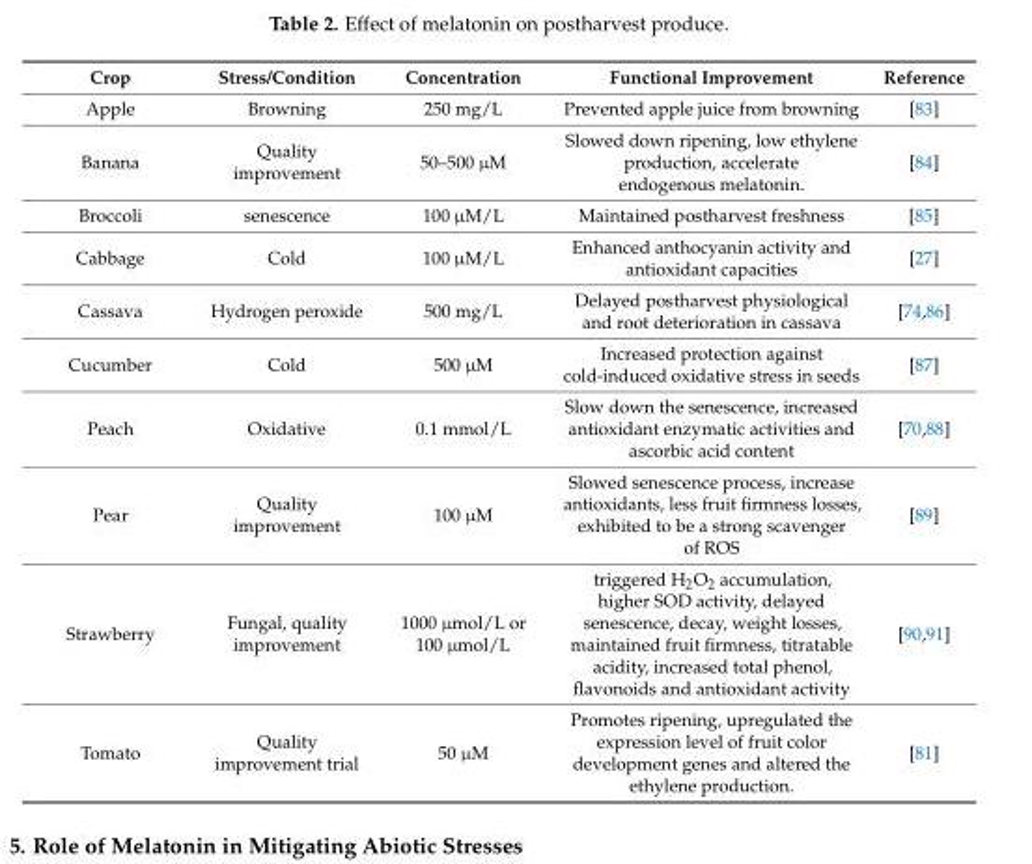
<table><thead><tr><td>Crop</td><td>Stress/Condition</td><td>Concentration</td><td>Functional Improvement</td><td>Reference</td></tr></thead><tbody><tr><td>Apple</td><td>Browning</td><td>250 mg/L</td><td>Prevented apple juice from browning</td><td>[83]</td></tr><tr><td>Banana</td><td>Quality improvement</td><td>50–500 µM</td><td>Slowed down ripening, low ethylene production, accelerate endogenous melatonin.</td><td>[84]</td></tr><tr><td>Broccoli</td><td>senescence</td><td>100 µM/L</td><td>Maintained postharvest freshness</td><td>[85]</td></tr><tr><td>Cabbage</td><td>Cold</td><td>100 µM/L</td><td>Enhanced anthocyanin activity and antioxidant capacities</td><td>[27]</td></tr><tr><td>Cassava</td><td>Hydrogen peroxide</td><td>500 mg/L</td><td>Delayed postharvest physiological and root deterioration in cassava</td><td>[74,86]</td></tr><tr><td>Cucumber</td><td>Cold</td><td>500 µM</td><td>Increased protection against cold-induced oxidative stress in seeds</td><td>[87]</td></tr><tr><td>Peach</td><td>Oxidative</td><td>0.1 mmol/L</td><td>Slow down the senescence, increased antioxidant enzymatic activities and ascorbic acid content</td><td>[70,88]</td></tr><tr><td>Pear</td><td>Quality improvement</td><td>100 µM</td><td>Slowed senescence process, increase antioxidants, less fruit firmness losses, exhibited to be a strong scavenger of ROS</td><td>[89]</td></tr><tr><td>Strawberry</td><td>Fungal, quality improvement</td><td>1000 µmol/L or 100 µmol/L</td><td>triggered H<sub>2</sub>O<sub>2</sub> accumulation, higher SOD activity, delayed senescence, decay, weight losses, maintained fruit firmness, titratable acidity, increased total phenol, flavonoids and antioxidant activity</td><td>[90,91]</td></tr><tr><td>Tomato</td><td>Quality improvement trial</td><td>50 µM</td><td>Promotes ripening, upregulated the expression level of fruit color development genes and altered the ethylene production.</td><td>[81]</td></tr></tbody></table>